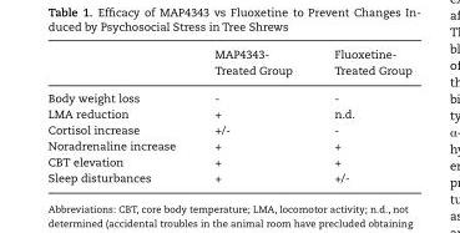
<table><thead><tr><td></td><td>MAP4343- Treated Group</td><td>Fluoxetine- Treated Group</td></tr></thead><tbody><tr><td>Body weight loss</td><td>-</td><td>-</td></tr><tr><td>LMA reduction</td><td>+</td><td>n.d.</td></tr><tr><td>Cortisol increase</td><td>+/-</td><td>-</td></tr><tr><td>Noradrenaline increase</td><td>+</td><td>+</td></tr><tr><td>CBT elevation</td><td>+</td><td>+</td></tr><tr><td>Sleep disturbances</td><td>+</td><td>+/-</td></tr></tbody></table>